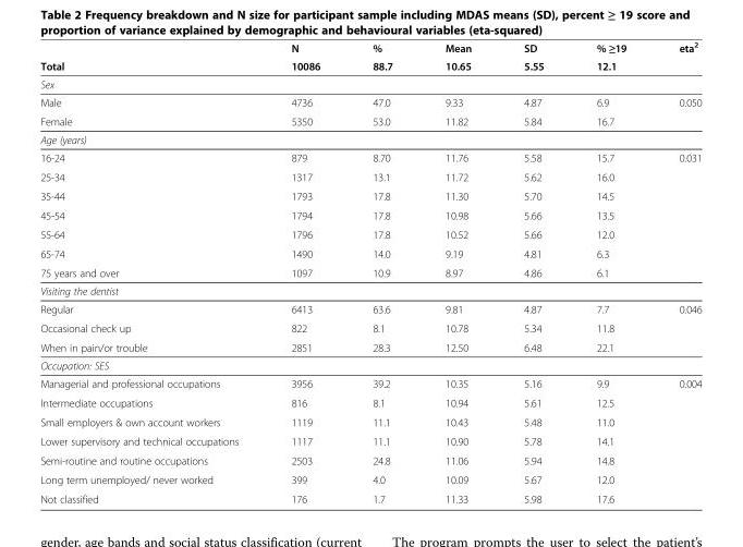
<table><thead><tr><td rowspan="2">Total</td><td rowspan="2">N 10086</td><td rowspan="2">% 88.7</td><td rowspan="2">Mean 10.65</td><td rowspan="2">SD 5.55</td><td rowspan="2">% ≥19 12.1</td><td rowspan="2">eta<sup>2</sup></td></tr><tr></tr></thead><tbody><tr><td colspan="7">Sex</td></tr><tr><td>Male</td><td>4736</td><td>47.0</td><td>9.33</td><td>4.87</td><td>6.9</td><td>0.050</td></tr><tr><td>Female</td><td>5350</td><td>53.0</td><td>11.82</td><td>5.84</td><td>16.7</td><td></td></tr><tr><td colspan="7">Age (years)</td></tr><tr><td>16-24</td><td>879</td><td>8.70</td><td>11.76</td><td>5.58</td><td>15.7</td><td>0.031</td></tr><tr><td>25-34</td><td>1317</td><td>13.1</td><td>11.72</td><td>5.62</td><td>16.0</td><td></td></tr><tr><td>35-44</td><td>1793</td><td>17.8</td><td>11.30</td><td>5.70</td><td>14.5</td><td></td></tr><tr><td>45-54</td><td>1794</td><td>17.8</td><td>10.98</td><td>5.66</td><td>13.5</td><td></td></tr><tr><td>55-64</td><td>1796</td><td>17.8</td><td>10.52</td><td>5.66</td><td>12.0</td><td></td></tr><tr><td>65-74</td><td>1490</td><td>14.0</td><td>9.19</td><td>4.81</td><td>6.3</td><td></td></tr><tr><td>75 years and over</td><td>1097</td><td>10.9</td><td>8.97</td><td>4.86</td><td>6.1</td><td></td></tr><tr><td colspan="7">Visiting the dentist</td></tr><tr><td>Regular</td><td>6413</td><td>63.6</td><td>9.81</td><td>4.87</td><td>7.7</td><td>0.046</td></tr><tr><td>Occasional check up</td><td>822</td><td>8.1</td><td>10.78</td><td>5.34</td><td>11.8</td><td></td></tr><tr><td>When in pain/or trouble</td><td>2851</td><td>28.3</td><td>12.50</td><td>6.48</td><td>22.1</td><td></td></tr><tr><td colspan="7">Occupation: SES</td></tr><tr><td>Managerial and professional occupations</td><td>3956</td><td>39.2</td><td>10.35</td><td>5.16</td><td>9.9</td><td>0.004</td></tr><tr><td>Intermediate occupations</td><td>816</td><td>8.1</td><td>10.94</td><td>5.61</td><td>12.5</td><td></td></tr><tr><td>Small employers &amp; own account workers</td><td>1119</td><td>11.1</td><td>10.43</td><td>5.48</td><td>11.0</td><td></td></tr><tr><td>Lower supervisory and technical occupations</td><td>1117</td><td>11.1</td><td>10.90</td><td>5.78</td><td>14.1</td><td></td></tr><tr><td>Semi-routine and routine occupations</td><td>2503</td><td>24.8</td><td>11.06</td><td>5.94</td><td>14.8</td><td></td></tr><tr><td>Long term unemployed/ never worked</td><td>399</td><td>4.0</td><td>10.09</td><td>5.67</td><td>12.0</td><td></td></tr><tr><td>Not classified</td><td>176</td><td>1.7</td><td>11.33</td><td>5.98</td><td>17.6</td><td></td></tr></tbody></table>